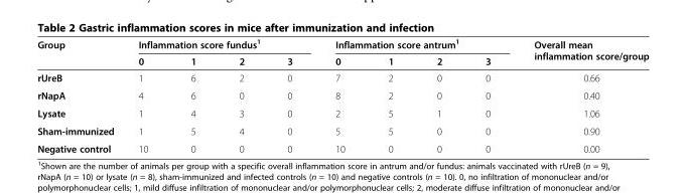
<table><thead><tr><td rowspan="2">Group</td><td colspan="4">Inflammation score fundus<sup>1</sup></td><td colspan="4">Inflammation score antrum<sup>1</sup></td><td rowspan="2">Overall mean inflammation score/group</td></tr><tr><td>0</td><td>1</td><td>2</td><td>3</td><td>0</td><td>1</td><td>2</td><td>3</td></tr></thead><tbody><tr><td>rUreB</td><td>1</td><td>6</td><td>2</td><td>0</td><td>7</td><td>2</td><td>0</td><td>0</td><td>0.66</td></tr><tr><td>rNapA</td><td>4</td><td>6</td><td>0</td><td>0</td><td>8</td><td>2</td><td>0</td><td>0</td><td>0.40</td></tr><tr><td>Lysate</td><td>1</td><td>4</td><td>3</td><td>0</td><td>2</td><td>5</td><td>1</td><td>0</td><td>1.06</td></tr><tr><td>Sham-immunized</td><td>1</td><td>5</td><td>4</td><td>0</td><td>5</td><td>5</td><td>0</td><td>0</td><td>0.90</td></tr><tr><td>Negative control</td><td>10</td><td>0</td><td>0</td><td>0</td><td>10</td><td>0</td><td>0</td><td>0</td><td>0.00</td></tr></tbody></table>